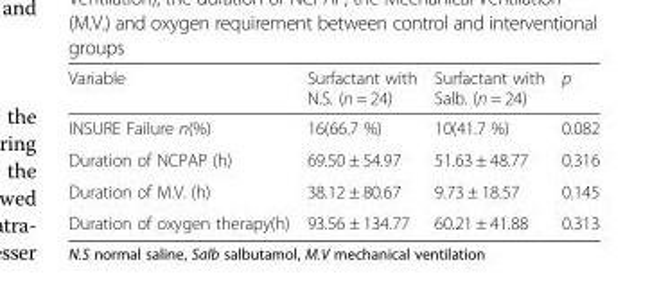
<table><thead><tr><td>Variable</td><td>Surfactant with N.S. (n = 24)</td><td>Surfactant with Salb. (n = 24)</td><td>p</td></tr></thead><tbody><tr><td>INSURE Failure n(%)</td><td>16(66.7 %)</td><td>10(41.7 %)</td><td>0.082</td></tr><tr><td>Duration of NCPAP (h)</td><td>69.50 ± 54.97</td><td>51.63 ± 48.77</td><td>0.316</td></tr><tr><td>Duration of M.V. (h)</td><td>38.12 ± 80.67</td><td>9.73 ± 18.57</td><td>0.145</td></tr><tr><td>Duration of oxygen therapy(h)</td><td>93.56 ± 134.77</td><td>60.21 ± 41.88</td><td>0.313</td></tr></tbody></table>